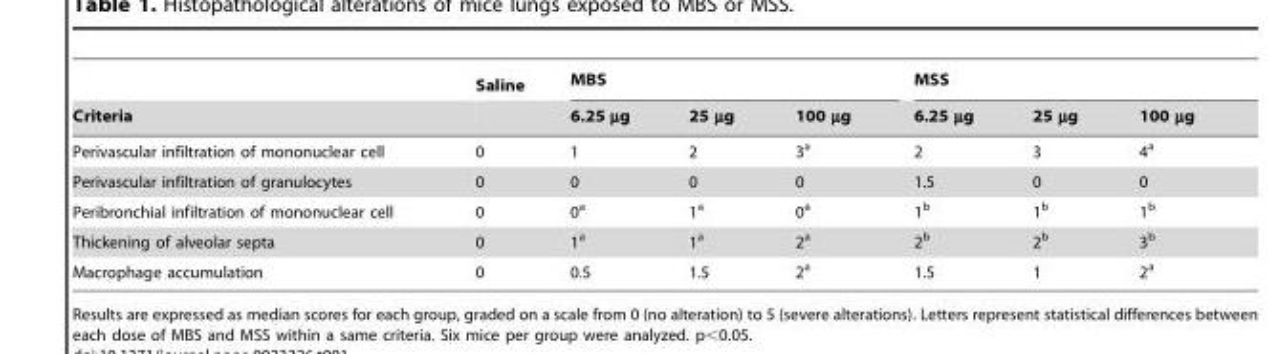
<table><thead><tr><td rowspan="2">Criteria</td><td rowspan="2">Saline</td><td colspan="3">MBS</td><td colspan="3">MSS</td></tr><tr><td>6.25 µg</td><td>25 µg</td><td>100 µg</td><td>6.25 µg</td><td>25 µg</td><td>100 µg</td></tr></thead><tbody><tr><td>Perivascular infiltration of mononuclear cell</td><td>0</td><td>1</td><td>2</td><td>3<sup>a</sup></td><td>2</td><td>3</td><td>4<sup>a</sup></td></tr><tr><td>Perivascular infiltration of granulocytes</td><td>0</td><td>0</td><td>0</td><td>0</td><td>1.5</td><td>0</td><td>0</td></tr><tr><td>Peribronchial infiltration of mononuclear cell</td><td>0</td><td>0<sup>a</sup></td><td>1<sup>a</sup></td><td>0<sup>a</sup></td><td>1<sup>b</sup></td><td>1<sup>b</sup></td><td>1<sup>b</sup></td></tr><tr><td>Thickening of alveolar septa</td><td>0</td><td>1<sup>a</sup></td><td>1<sup>a</sup></td><td>2<sup>a</sup></td><td>2<sup>b</sup></td><td>2<sup>b</sup></td><td>3<sup>b</sup></td></tr><tr><td>Macrophage accumulation</td><td>0</td><td>0.5</td><td>1.5</td><td>2<sup>a</sup></td><td>1.5</td><td>1</td><td>2<sup>a</sup></td></tr></tbody></table>